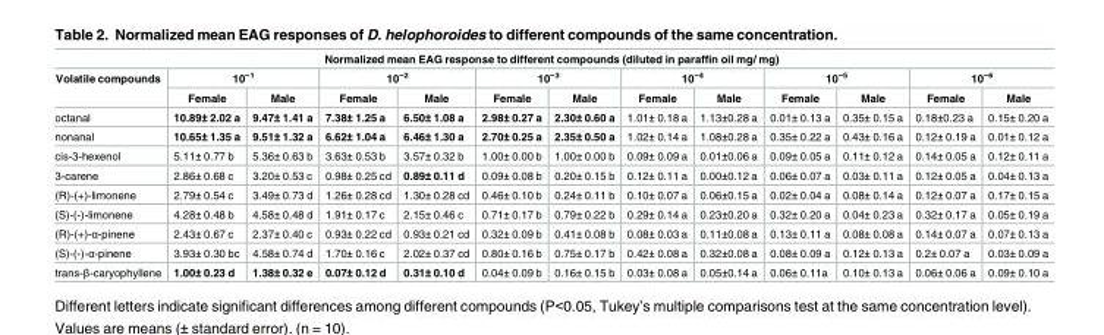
<table><thead><tr><td colspan="13">Normalized mean EAG response to different compounds (diluted in paraffin oil mg/ mg)</td></tr><tr><td rowspan="2">Volatile compounds</td><td colspan="2">10<sup>−1</sup></td><td colspan="2">10<sup>−2</sup></td><td colspan="2">10<sup>−3</sup></td><td colspan="2">10<sup>−4</sup></td><td colspan="2">10<sup>−5</sup></td><td colspan="2">10<sup>−6</sup></td></tr><tr><td>Female</td><td>Male</td><td>Female</td><td>Male</td><td>Female</td><td>Male</td><td>Female</td><td>Male</td><td>Female</td><td>Male</td><td>Female</td><td>Male</td></tr></thead><tbody><tr><td>octanal</td><td>10.89± 2.02 a</td><td>9.47± 1.41 a</td><td>7.38± 1.25 a</td><td>6.50± 1.08 a</td><td>2.98± 0.27 a</td><td>2.30± 0.60 a</td><td>1.01± 0.18 a</td><td>1.13±0.28 a</td><td>0.01± 0.13 a</td><td>0.35± 0.15 a</td><td>0.18±0.23 a</td><td>0.15± 0.20 a</td></tr><tr><td>nonanal</td><td>10.65± 1.35 a</td><td>9.51± 1.32 a</td><td>6.62± 1.04 a</td><td>6.46± 1.30 a</td><td>2.70± 0.25 a</td><td>2.35± 0.50 a</td><td>1.02± 0.14 a</td><td>1.08±0.28 a</td><td>0.35± 0.22 a</td><td>0.43± 0.16 a</td><td>0.12± 0.19 a</td><td>0.01± 0.12 a</td></tr><tr><td>cis-3-hexenol</td><td>5.11± 0.77 b</td><td>5.36± 0.63 b</td><td>3.63± 0.53 b</td><td>3.57± 0.32 b</td><td>1.00± 0.00 b</td><td>1.00± 0.00 b</td><td>0.09± 0.09 a</td><td>0.01±0.06 a</td><td>0.09± 0.05 a</td><td>0.11± 0.12 a</td><td>0.14± 0.05 a</td><td>0.12± 0.11 a</td></tr><tr><td>3-carene</td><td>2.86± 0.68 c</td><td>3.20± 0.53 c</td><td>0.98± 0.25 cd</td><td>0.89± 0.11 d</td><td>0.09± 0.08 b</td><td>0.20± 0.15 b</td><td>0.12± 0.11 a</td><td>0.00±0.12 a</td><td>0.06± 0.07 a</td><td>0.03± 0.11 a</td><td>0.12± 0.05 a</td><td>0.04± 0.13 a</td></tr><tr><td>(R)-(+)-limonene</td><td>2.79± 0.54 c</td><td>3.49± 0.73 d</td><td>1.26± 0.28 cd</td><td>1.30± 0.28 cd</td><td>0.46± 0.10 b</td><td>0.24± 0.11 b</td><td>0.10± 0.07 a</td><td>0.06±0.15 a</td><td>0.02± 0.04 a</td><td>0.08± 0.14 a</td><td>0.12± 0.07 a</td><td>0.17± 0.15 a</td></tr><tr><td>(S)-(-)-limonene</td><td>4.28± 0.48 b</td><td>4.58± 0.48 d</td><td>1.91± 0.17 c</td><td>2.15± 0.46 c</td><td>0.71± 0.17 b</td><td>0.79± 0.22 b</td><td>0.29± 0.14 a</td><td>0.23±0.20 a</td><td>0.32± 0.20 a</td><td>0.04± 0.23 a</td><td>0.32± 0.17 a</td><td>0.05± 0.19 a</td></tr><tr><td>(R)-(+)-α-pinene</td><td>2.43± 0.67 c</td><td>2.37± 0.40 c</td><td>0.93± 0.22 cd</td><td>0.93± 0.21 cd</td><td>0.32± 0.09 b</td><td>0.41± 0.08 b</td><td>0.08± 0.03 a</td><td>0.11±0.08 a</td><td>0.13± 0.11 a</td><td>0.08± 0.08 a</td><td>0.14± 0.07 a</td><td>0.07± 0.13 a</td></tr><tr><td>(S)-(-)-α-pinene</td><td>3.93± 0.30 bc</td><td>4.58± 0.74 d</td><td>1.70± 0.16 c</td><td>2.02± 0.37 cd</td><td>0.80± 0.16 b</td><td>0.75± 0.17 b</td><td>0.42± 0.08 a</td><td>0.32±0.08 a</td><td>0.08± 0.09 a</td><td>0.12± 0.13 a</td><td>0.2± 0.07 a</td><td>0.03± 0.09 a</td></tr><tr><td>trans-β-caryophyllene</td><td>1.00± 0.23 d</td><td>1.38± 0.32 e</td><td>0.07± 0.12 d</td><td>0.31± 0.10 d</td><td>0.04± 0.09 b</td><td>0.16± 0.15 b</td><td>0.03± 0.08 a</td><td>0.05±0.14 a</td><td>0.06± 0.11a</td><td>0.10± 0.13 a</td><td>0.06± 0.06 a</td><td>0.09± 0.10 a</td></tr></tbody></table>